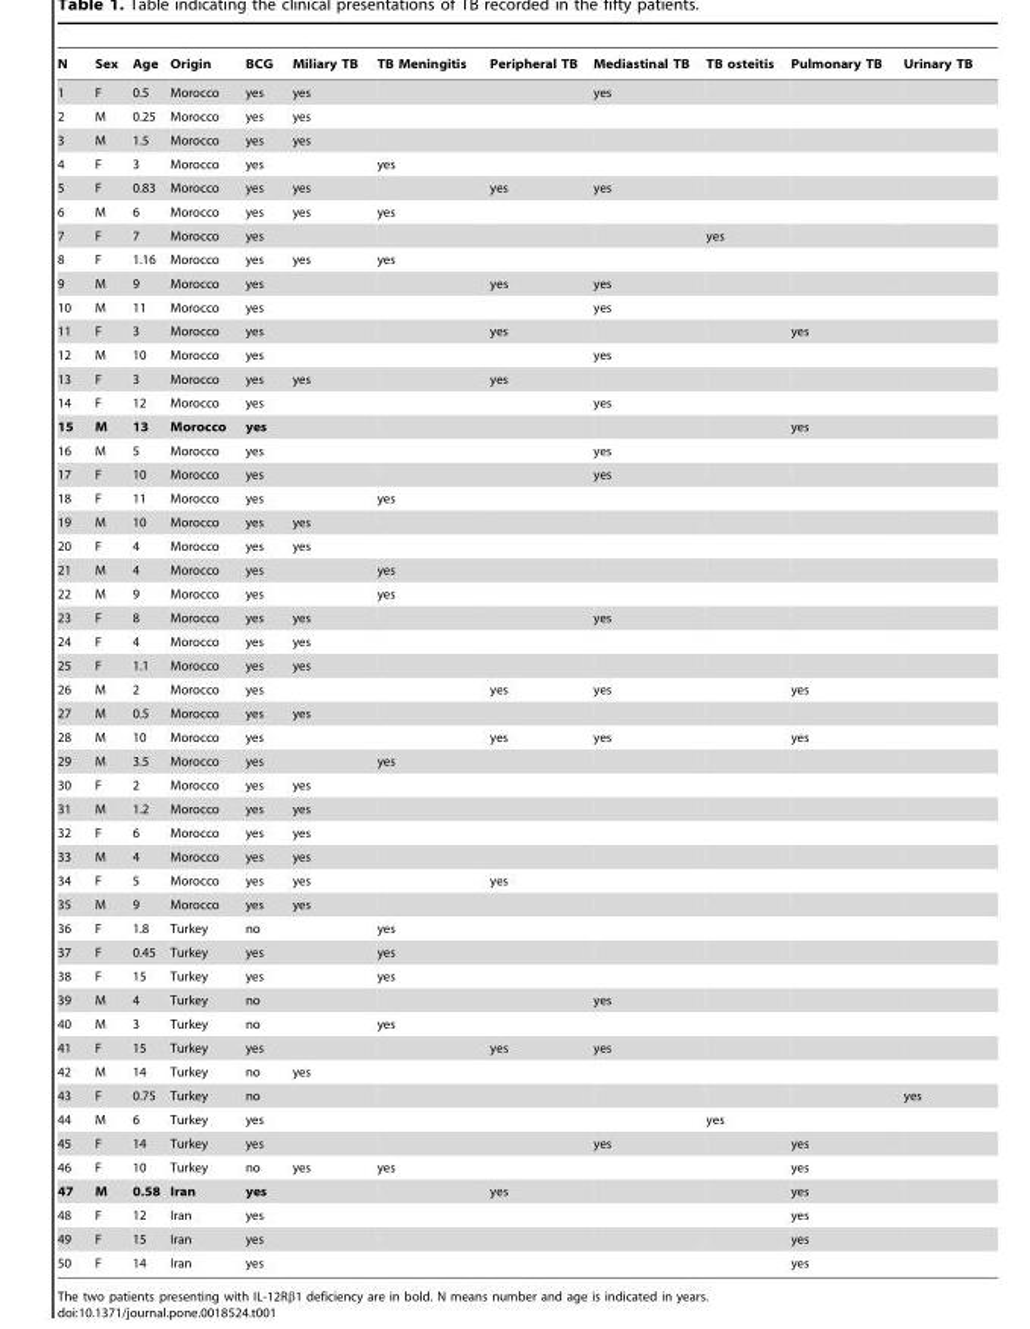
<table><thead><tr><td>N</td><td>Sex</td><td>Age</td><td>Origin</td><td>BCG</td><td>Miliary TB</td><td>TB Meningitis</td><td>Peripheral TB</td><td>Mediastinal TB</td><td>TB osteitis</td><td>Pulmonary TB</td><td>Urinary TB</td></tr></thead><tbody><tr><td>1</td><td>F</td><td>0.5</td><td>Morocco</td><td>yes</td><td>yes</td><td></td><td></td><td>yes</td><td></td><td></td><td></td></tr><tr><td>2</td><td>M</td><td>0.25</td><td>Morocco</td><td>yes</td><td>yes</td><td></td><td></td><td></td><td></td><td></td><td></td></tr><tr><td>3</td><td>M</td><td>1.5</td><td>Morocco</td><td>yes</td><td>yes</td><td></td><td></td><td></td><td></td><td></td><td></td></tr><tr><td>4</td><td>F</td><td>3</td><td>Morocco</td><td>yes</td><td></td><td>yes</td><td></td><td></td><td></td><td></td><td></td></tr><tr><td>5</td><td>F</td><td>0.83</td><td>Morocco</td><td>yes</td><td>yes</td><td></td><td>yes</td><td>yes</td><td></td><td></td><td></td></tr><tr><td>6</td><td>M</td><td>6</td><td>Morocco</td><td>yes</td><td>yes</td><td>yes</td><td></td><td></td><td></td><td></td><td></td></tr><tr><td>7</td><td>F</td><td>7</td><td>Morocco</td><td>yes</td><td></td><td></td><td></td><td></td><td>yes</td><td></td><td></td></tr><tr><td>8</td><td>F</td><td>1.16</td><td>Morocco</td><td>yes</td><td>yes</td><td>yes</td><td></td><td></td><td></td><td></td><td></td></tr><tr><td>9</td><td>M</td><td>9</td><td>Morocco</td><td>yes</td><td></td><td></td><td>yes</td><td>yes</td><td></td><td></td><td></td></tr><tr><td>10</td><td>M</td><td>11</td><td>Morocco</td><td>yes</td><td></td><td></td><td></td><td>yes</td><td></td><td></td><td></td></tr><tr><td>11</td><td>F</td><td>3</td><td>Morocco</td><td>yes</td><td></td><td></td><td>yes</td><td></td><td></td><td>yes</td><td></td></tr><tr><td>12</td><td>M</td><td>10</td><td>Morocco</td><td>yes</td><td></td><td></td><td></td><td>yes</td><td></td><td></td><td></td></tr><tr><td>13</td><td>F</td><td>3</td><td>Morocco</td><td>yes</td><td>yes</td><td></td><td>yes</td><td></td><td></td><td></td><td></td></tr><tr><td>14</td><td>F</td><td>12</td><td>Morocco</td><td>yes</td><td></td><td></td><td></td><td>yes</td><td></td><td></td><td></td></tr><tr><td>15</td><td>M</td><td>13</td><td>Morocco</td><td>yes</td><td></td><td></td><td></td><td></td><td></td><td>yes</td><td></td></tr><tr><td>16</td><td>M</td><td>5</td><td>Morocco</td><td>yes</td><td></td><td></td><td></td><td>yes</td><td></td><td></td><td></td></tr><tr><td>17</td><td>F</td><td>10</td><td>Morocco</td><td>yes</td><td></td><td></td><td></td><td>yes</td><td></td><td></td><td></td></tr><tr><td>18</td><td>F</td><td>11</td><td>Morocco</td><td>yes</td><td></td><td>yes</td><td></td><td></td><td></td><td></td><td></td></tr><tr><td>19</td><td>M</td><td>10</td><td>Morocco</td><td>yes</td><td>yes</td><td></td><td></td><td></td><td></td><td></td><td></td></tr><tr><td>20</td><td>F</td><td>4</td><td>Morocco</td><td>yes</td><td>yes</td><td></td><td></td><td></td><td></td><td></td><td></td></tr><tr><td>21</td><td>M</td><td>4</td><td>Morocco</td><td>yes</td><td></td><td>yes</td><td></td><td></td><td></td><td></td><td></td></tr><tr><td>22</td><td>M</td><td>9</td><td>Morocco</td><td>yes</td><td></td><td>yes</td><td></td><td></td><td></td><td></td><td></td></tr><tr><td>23</td><td>F</td><td>8</td><td>Morocco</td><td>yes</td><td>yes</td><td></td><td></td><td>yes</td><td></td><td></td><td></td></tr><tr><td>24</td><td>F</td><td>4</td><td>Morocco</td><td>yes</td><td>yes</td><td></td><td></td><td></td><td></td><td></td><td></td></tr><tr><td>25</td><td>F</td><td>1.1</td><td>Morocco</td><td>yes</td><td>yes</td><td></td><td></td><td></td><td></td><td></td><td></td></tr><tr><td>26</td><td>M</td><td>2</td><td>Morocco</td><td>yes</td><td></td><td></td><td>yes</td><td>yes</td><td></td><td>yes</td><td></td></tr><tr><td>27</td><td>M</td><td>0.5</td><td>Morocco</td><td>yes</td><td>yes</td><td></td><td></td><td></td><td></td><td></td><td></td></tr><tr><td>28</td><td>M</td><td>10</td><td>Morocco</td><td>yes</td><td></td><td></td><td>yes</td><td>yes</td><td></td><td>yes</td><td></td></tr><tr><td>29</td><td>M</td><td>3.5</td><td>Morocco</td><td>yes</td><td></td><td>yes</td><td></td><td></td><td></td><td></td><td></td></tr><tr><td>30</td><td>F</td><td>2</td><td>Morocco</td><td>yes</td><td>yes</td><td></td><td></td><td></td><td></td><td></td><td></td></tr><tr><td>31</td><td>M</td><td>1.2</td><td>Morocco</td><td>yes</td><td>yes</td><td></td><td></td><td></td><td></td><td></td><td></td></tr><tr><td>32</td><td>F</td><td>6</td><td>Morocco</td><td>yes</td><td>yes</td><td></td><td></td><td></td><td></td><td></td><td></td></tr><tr><td>33</td><td>M</td><td>4</td><td>Morocco</td><td>yes</td><td>yes</td><td></td><td></td><td></td><td></td><td></td><td></td></tr><tr><td>34</td><td>F</td><td>5</td><td>Morocco</td><td>yes</td><td>yes</td><td></td><td>yes</td><td></td><td></td><td></td><td></td></tr><tr><td>35</td><td>M</td><td>9</td><td>Morocco</td><td>yes</td><td>yes</td><td></td><td></td><td></td><td></td><td></td><td></td></tr><tr><td>36</td><td>F</td><td>1.8</td><td>Turkey</td><td>no</td><td></td><td>yes</td><td></td><td></td><td></td><td></td><td></td></tr><tr><td>37</td><td>F</td><td>0.45</td><td>Turkey</td><td>yes</td><td></td><td>yes</td><td></td><td></td><td></td><td></td><td></td></tr><tr><td>38</td><td>F</td><td>15</td><td>Turkey</td><td>yes</td><td></td><td>yes</td><td></td><td></td><td></td><td></td><td></td></tr><tr><td>39</td><td>M</td><td>4</td><td>Turkey</td><td>no</td><td></td><td></td><td></td><td>yes</td><td></td><td></td><td></td></tr><tr><td>40</td><td>M</td><td>3</td><td>Turkey</td><td>no</td><td></td><td>yes</td><td></td><td></td><td></td><td></td><td></td></tr><tr><td>41</td><td>F</td><td>15</td><td>Turkey</td><td>yes</td><td></td><td></td><td>yes</td><td>yes</td><td></td><td></td><td></td></tr><tr><td>42</td><td>M</td><td>14</td><td>Turkey</td><td>no</td><td>yes</td><td></td><td></td><td></td><td></td><td></td><td></td></tr><tr><td>43</td><td>F</td><td>0.75</td><td>Turkey</td><td>no</td><td></td><td></td><td></td><td></td><td></td><td></td><td>yes</td></tr><tr><td>44</td><td>M</td><td>6</td><td>Turkey</td><td>yes</td><td></td><td></td><td></td><td></td><td>yes</td><td></td><td></td></tr><tr><td>45</td><td>F</td><td>14</td><td>Turkey</td><td>yes</td><td></td><td></td><td></td><td>yes</td><td></td><td>yes</td><td></td></tr><tr><td>46</td><td>F</td><td>10</td><td>Turkey</td><td>no</td><td>yes</td><td>yes</td><td></td><td></td><td></td><td>yes</td><td></td></tr><tr><td>47</td><td>M</td><td>0.58</td><td>Iran</td><td>yes</td><td></td><td></td><td>yes</td><td></td><td></td><td>yes</td><td></td></tr><tr><td>48</td><td>F</td><td>12</td><td>Iran</td><td>yes</td><td></td><td></td><td></td><td></td><td></td><td>yes</td><td></td></tr><tr><td>49</td><td>F</td><td>15</td><td>Iran</td><td>yes</td><td></td><td></td><td></td><td></td><td></td><td>yes</td><td></td></tr><tr><td>50</td><td>F</td><td>14</td><td>Iran</td><td>yes</td><td></td><td></td><td></td><td></td><td></td><td>yes</td><td></td></tr></tbody></table>